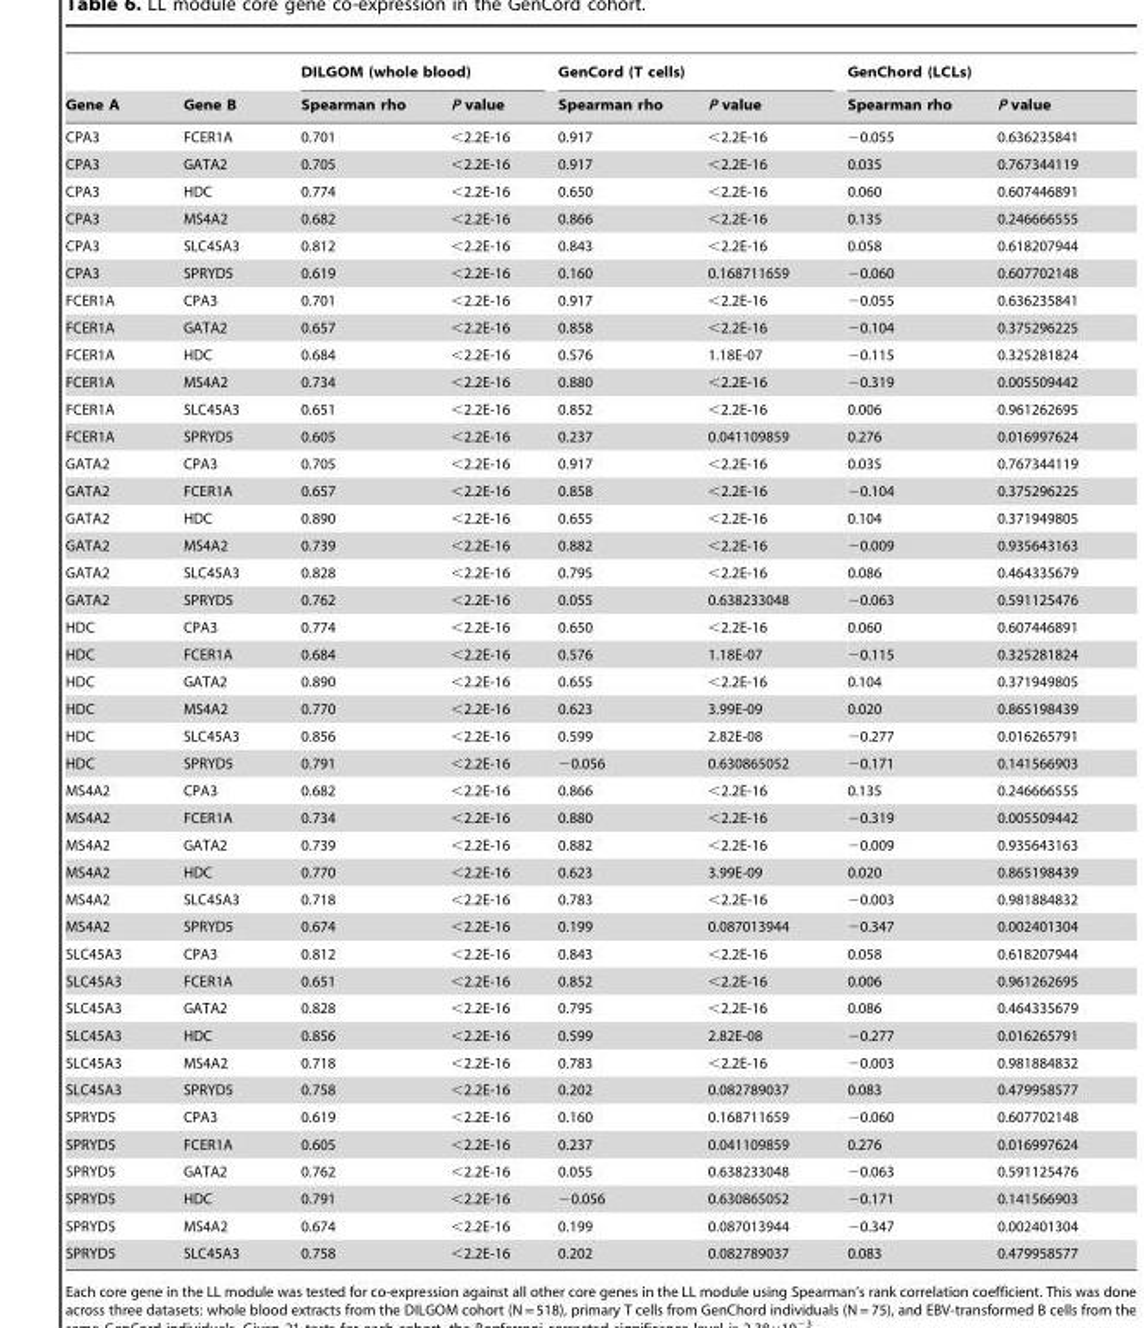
<table><thead><tr><td rowspan="2">Gene A</td><td rowspan="2">Gene B</td><td colspan="2">DILGOM (whole blood)</td><td colspan="2">GenCord (T cells)</td><td colspan="2">GenChord (LCLs)</td></tr><tr><td>Spearman rho</td><td>P value</td><td>Spearman rho</td><td>P value</td><td>Spearman rho</td><td>P value</td></tr></thead><tbody><tr><td>CPA3</td><td>FCER1A</td><td>0.701</td><td>&lt;2.2E-16</td><td>0.917</td><td>&lt;2.2E-16</td><td>−0.055</td><td>0.636235841</td></tr><tr><td>CPA3</td><td>GATA2</td><td>0.705</td><td>&lt;2.2E-16</td><td>0.917</td><td>&lt;2.2E-16</td><td>0.035</td><td>0.767344119</td></tr><tr><td>CPA3</td><td>HDC</td><td>0.774</td><td>&lt;2.2E-16</td><td>0.650</td><td>&lt;2.2E-16</td><td>0.060</td><td>0.607446891</td></tr><tr><td>CPA3</td><td>MS4A2</td><td>0.682</td><td>&lt;2.2E-16</td><td>0.866</td><td>&lt;2.2E-16</td><td>0.135</td><td>0.246666555</td></tr><tr><td>CPA3</td><td>SLC45A3</td><td>0.812</td><td>&lt;2.2E-16</td><td>0.843</td><td>&lt;2.2E-16</td><td>0.058</td><td>0.618207944</td></tr><tr><td>CPA3</td><td>SPRYD5</td><td>0.619</td><td>&lt;2.2E-16</td><td>0.160</td><td>0.168711659</td><td>−0.060</td><td>0.607702148</td></tr><tr><td>FCER1A</td><td>CPA3</td><td>0.701</td><td>&lt;2.2E-16</td><td>0.917</td><td>&lt;2.2E-16</td><td>−0.055</td><td>0.636235841</td></tr><tr><td>FCER1A</td><td>GATA2</td><td>0.657</td><td>&lt;2.2E-16</td><td>0.858</td><td>&lt;2.2E-16</td><td>−0.104</td><td>0.375296225</td></tr><tr><td>FCER1A</td><td>HDC</td><td>0.684</td><td>&lt;2.2E-16</td><td>0.576</td><td>1.18E-07</td><td>−0.115</td><td>0.325281824</td></tr><tr><td>FCER1A</td><td>MS4A2</td><td>0.734</td><td>&lt;2.2E-16</td><td>0.880</td><td>&lt;2.2E-16</td><td>−0.319</td><td>0.005509442</td></tr><tr><td>FCER1A</td><td>SLC45A3</td><td>0.651</td><td>&lt;2.2E-16</td><td>0.852</td><td>&lt;2.2E-16</td><td>0.006</td><td>0.961262695</td></tr><tr><td>FCER1A</td><td>SPRYD5</td><td>0.605</td><td>&lt;2.2E-16</td><td>0.237</td><td>0.041109859</td><td>0.276</td><td>0.016997624</td></tr><tr><td>GATA2</td><td>CPA3</td><td>0.705</td><td>&lt;2.2E-16</td><td>0.917</td><td>&lt;2.2E-16</td><td>0.035</td><td>0.767344119</td></tr><tr><td>GATA2</td><td>FCER1A</td><td>0.657</td><td>&lt;2.2E-16</td><td>0.858</td><td>&lt;2.2E-16</td><td>−0.104</td><td>0.375296225</td></tr><tr><td>GATA2</td><td>HDC</td><td>0.890</td><td>&lt;2.2E-16</td><td>0.655</td><td>&lt;2.2E-16</td><td>0.104</td><td>0.371949805</td></tr><tr><td>GATA2</td><td>MS4A2</td><td>0.739</td><td>&lt;2.2E-16</td><td>0.882</td><td>&lt;2.2E-16</td><td>−0.009</td><td>0.935643163</td></tr><tr><td>GATA2</td><td>SLC45A3</td><td>0.828</td><td>&lt;2.2E-16</td><td>0.795</td><td>&lt;2.2E-16</td><td>0.086</td><td>0.464335679</td></tr><tr><td>GATA2</td><td>SPRYD5</td><td>0.762</td><td>&lt;2.2E-16</td><td>0.055</td><td>0.638233048</td><td>−0.063</td><td>0.591125476</td></tr><tr><td>HDC</td><td>CPA3</td><td>0.774</td><td>&lt;2.2E-16</td><td>0.650</td><td>&lt;2.2E-16</td><td>0.060</td><td>0.607446891</td></tr><tr><td>HDC</td><td>FCER1A</td><td>0.684</td><td>&lt;2.2E-16</td><td>0.576</td><td>1.18E-07</td><td>−0.115</td><td>0.325281824</td></tr><tr><td>HDC</td><td>GATA2</td><td>0.890</td><td>&lt;2.2E-16</td><td>0.655</td><td>&lt;2.2E-16</td><td>0.104</td><td>0.371949805</td></tr><tr><td>HDC</td><td>MS4A2</td><td>0.770</td><td>&lt;2.2E-16</td><td>0.623</td><td>3.99E-09</td><td>0.020</td><td>0.865198439</td></tr><tr><td>HDC</td><td>SLC45A3</td><td>0.856</td><td>&lt;2.2E-16</td><td>0.599</td><td>2.82E-08</td><td>−0.277</td><td>0.016265791</td></tr><tr><td>HDC</td><td>SPRYD5</td><td>0.791</td><td>&lt;2.2E-16</td><td>−0.056</td><td>0.630865052</td><td>−0.171</td><td>0.141566903</td></tr><tr><td>MS4A2</td><td>CPA3</td><td>0.682</td><td>&lt;2.2E-16</td><td>0.866</td><td>&lt;2.2E-16</td><td>0.135</td><td>0.246666555</td></tr><tr><td>MS4A2</td><td>FCER1A</td><td>0.734</td><td>&lt;2.2E-16</td><td>0.880</td><td>&lt;2.2E-16</td><td>−0.319</td><td>0.005509442</td></tr><tr><td>MS4A2</td><td>GATA2</td><td>0.739</td><td>&lt;2.2E-16</td><td>0.882</td><td>&lt;2.2E-16</td><td>−0.009</td><td>0.935643163</td></tr><tr><td>MS4A2</td><td>HDC</td><td>0.770</td><td>&lt;2.2E-16</td><td>0.623</td><td>3.99E-09</td><td>0.020</td><td>0.865198439</td></tr><tr><td>MS4A2</td><td>SLC45A3</td><td>0.718</td><td>&lt;2.2E-16</td><td>0.783</td><td>&lt;2.2E-16</td><td>−0.003</td><td>0.981884832</td></tr><tr><td>MS4A2</td><td>SPRYD5</td><td>0.674</td><td>&lt;2.2E-16</td><td>0.199</td><td>0.087013944</td><td>−0.347</td><td>0.002401304</td></tr><tr><td>SLC45A3</td><td>CPA3</td><td>0.812</td><td>&lt;2.2E-16</td><td>0.843</td><td>&lt;2.2E-16</td><td>0.058</td><td>0.618207944</td></tr><tr><td>SLC45A3</td><td>FCER1A</td><td>0.651</td><td>&lt;2.2E-16</td><td>0.852</td><td>&lt;2.2E-16</td><td>0.006</td><td>0.961262695</td></tr><tr><td>SLC45A3</td><td>GATA2</td><td>0.828</td><td>&lt;2.2E-16</td><td>0.795</td><td>&lt;2.2E-16</td><td>0.086</td><td>0.464335679</td></tr><tr><td>SLC45A3</td><td>HDC</td><td>0.856</td><td>&lt;2.2E-16</td><td>0.599</td><td>2.82E-08</td><td>−0.277</td><td>0.016265791</td></tr><tr><td>SLC45A3</td><td>MS4A2</td><td>0.718</td><td>&lt;2.2E-16</td><td>0.783</td><td>&lt;2.2E-16</td><td>−0.003</td><td>0.981884832</td></tr><tr><td>SLC45A3</td><td>SPRYD5</td><td>0.758</td><td>&lt;2.2E-16</td><td>0.202</td><td>0.082789037</td><td>0.083</td><td>0.479958577</td></tr><tr><td>SPRYD5</td><td>CPA3</td><td>0.619</td><td>&lt;2.2E-16</td><td>0.160</td><td>0.168711659</td><td>−0.060</td><td>0.607702148</td></tr><tr><td>SPRYD5</td><td>FCER1A</td><td>0.605</td><td>&lt;2.2E-16</td><td>0.237</td><td>0.041109859</td><td>0.276</td><td>0.016997624</td></tr><tr><td>SPRYD5</td><td>GATA2</td><td>0.762</td><td>&lt;2.2E-16</td><td>0.055</td><td>0.638233048</td><td>−0.063</td><td>0.591125476</td></tr><tr><td>SPRYD5</td><td>HDC</td><td>0.791</td><td>&lt;2.2E-16</td><td>−0.056</td><td>0.630865052</td><td>−0.171</td><td>0.141566903</td></tr><tr><td>SPRYD5</td><td>MS4A2</td><td>0.674</td><td>&lt;2.2E-16</td><td>0.199</td><td>0.087013944</td><td>−0.347</td><td>0.002401304</td></tr><tr><td>SPRYD5</td><td>SLC45A3</td><td>0.758</td><td>&lt;2.2E-16</td><td>0.202</td><td>0.082789037</td><td>0.083</td><td>0.479958577</td></tr></tbody></table>